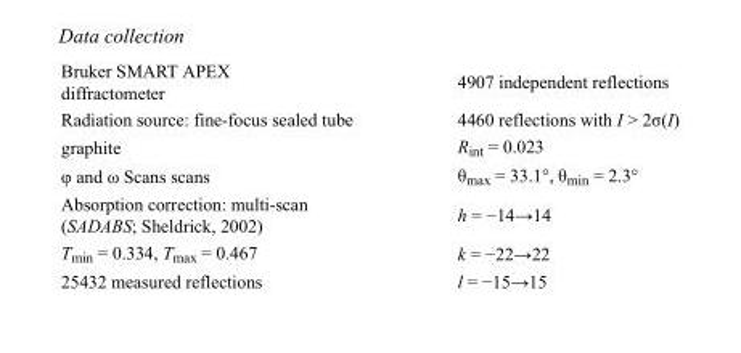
<table><tbody><tr><td>Bruker SMART APEX diffractometer</td><td>4907 independent reflections</td></tr><tr><td>Radiation source: fine-focus sealed tube</td><td>4460 reflections with I &gt; 2σ(I)</td></tr><tr><td>graphite</td><td>R<sub>int</sub> = 0.023</td></tr><tr><td>φ and ω Scans scans</td><td>θ<sub>max</sub> = 33.1°, θ<sub>min</sub> = 2.3°</td></tr><tr><td>Absorption correction: multi-scan (SADABS; Sheldrick, 2002)</td><td>h = −14→14</td></tr><tr><td>T<sub>min</sub> = 0.334, T<sub>max</sub> = 0.467</td><td>k = −22→22</td></tr><tr><td>25432 measured reflections</td><td>l = −15→15</td></tr></tbody></table>